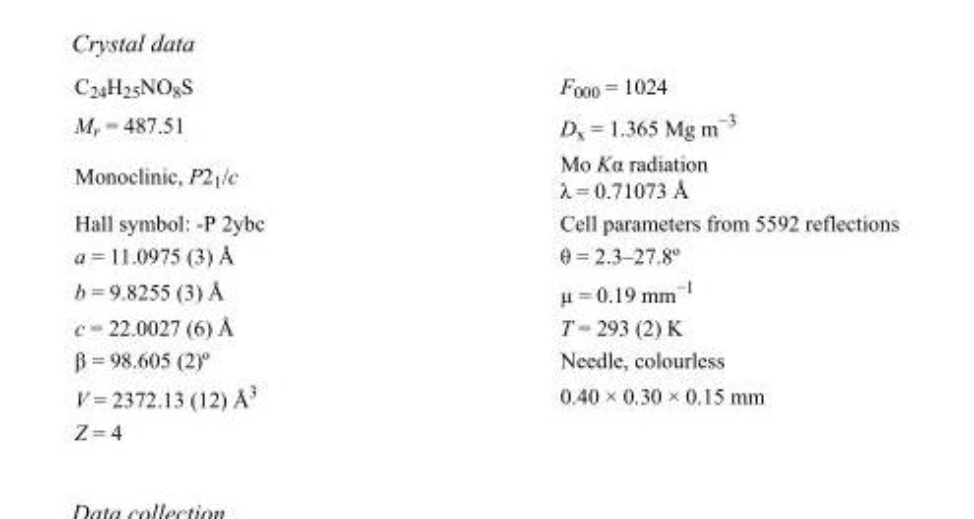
<table><tbody><tr><td>C<sub>24</sub>H<sub>25</sub>NO<sub>8</sub>S</td><td>F000 = 1024</td></tr><tr><td>M<sub>r</sub> = 487.51</td><td>D<sub>x</sub> = 1.365 Mg m<sup>−3</sup></td></tr><tr><td>Monoclinic, P2<sub>1</sub>/c</td><td>Mo Kα radiation λ = 0.71073 Å</td></tr><tr><td>Hall symbol: -P 2ybc</td><td>Cell parameters from 5592 reflections</td></tr><tr><td>a = 11.0975 (3) Å</td><td>θ = 2.3–27.8º</td></tr><tr><td>b = 9.8255 (3) Å</td><td>µ = 0.19 mm<sup>−1</sup></td></tr><tr><td>c = 22.0027 (6) Å</td><td>T = 293 (2) K</td></tr><tr><td>β = 98.605 (2)º</td><td>Needle, colourless</td></tr><tr><td>V = 2372.13 (12) Å<sup>3</sup></td><td>0.40 × 0.30 × 0.15 mm</td></tr><tr><td>Z = 4</td><td></td></tr></tbody></table>